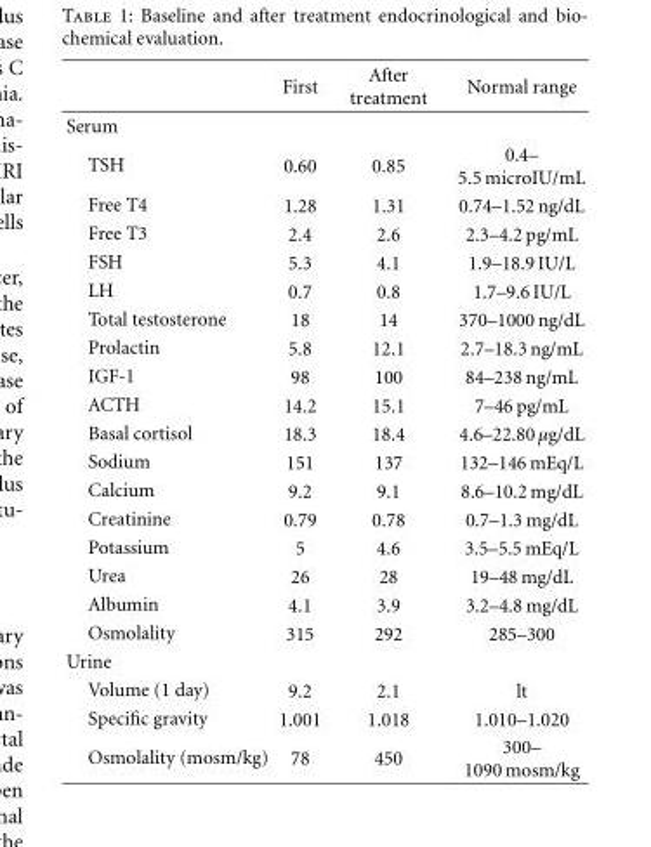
<table><thead><tr><td></td><td>First</td><td>After treatment</td><td>Normal range</td></tr></thead><tbody><tr><td colspan="4">Serum</td></tr><tr><td>TSH</td><td>0.60</td><td>0.85</td><td>0.4– 5.5 microIU/mL</td></tr><tr><td>Free T4</td><td>1.28</td><td>1.31</td><td>0.74–1.52 ng/dL</td></tr><tr><td>Free T3</td><td>2.4</td><td>2.6</td><td>2.3–4.2 pg/mL</td></tr><tr><td>FSH</td><td>5.3</td><td>4.1</td><td>1.9–18.9 IU/L</td></tr><tr><td>LH</td><td>0.7</td><td>0.8</td><td>1.7–9.6 IU/L</td></tr><tr><td>Total testosterone</td><td>18</td><td>14</td><td>370–1000 ng/dL</td></tr><tr><td>Prolactin</td><td>5.8</td><td>12.1</td><td>2.7–18.3 ng/mL</td></tr><tr><td>IGF-1</td><td>98</td><td>100</td><td>84–238 ng/mL</td></tr><tr><td>ACTH</td><td>14.2</td><td>15.1</td><td>7–46 pg/mL</td></tr><tr><td>Basal cortisol</td><td>18.3</td><td>18.4</td><td>4.6–22.80 μg/dL</td></tr><tr><td>Sodium</td><td>151</td><td>137</td><td>132–146 mEq/L</td></tr><tr><td>Calcium</td><td>9.2</td><td>9.1</td><td>8.6–10.2 mg/dL</td></tr><tr><td>Creatinine</td><td>0.79</td><td>0.78</td><td>0.7–1.3 mg/dL</td></tr><tr><td>Potassium</td><td>5</td><td>4.6</td><td>3.5–5.5 mEq/L</td></tr><tr><td>Urea</td><td>26</td><td>28</td><td>19–48 mg/dL</td></tr><tr><td>Albumin</td><td>4.1</td><td>3.9</td><td>3.2–4.8 mg/dL</td></tr><tr><td>Osmolality</td><td>315</td><td>292</td><td>285–300</td></tr><tr><td colspan="4">Urine</td></tr><tr><td>Volume (1 day)</td><td>9.2</td><td>2.1</td><td>lt</td></tr><tr><td>Specific gravity</td><td>1.001</td><td>1.018</td><td>1.010–1.020</td></tr><tr><td>Osmolality (mosm/kg)</td><td>78</td><td>450</td><td>300– 1090 mosm/kg</td></tr></tbody></table>